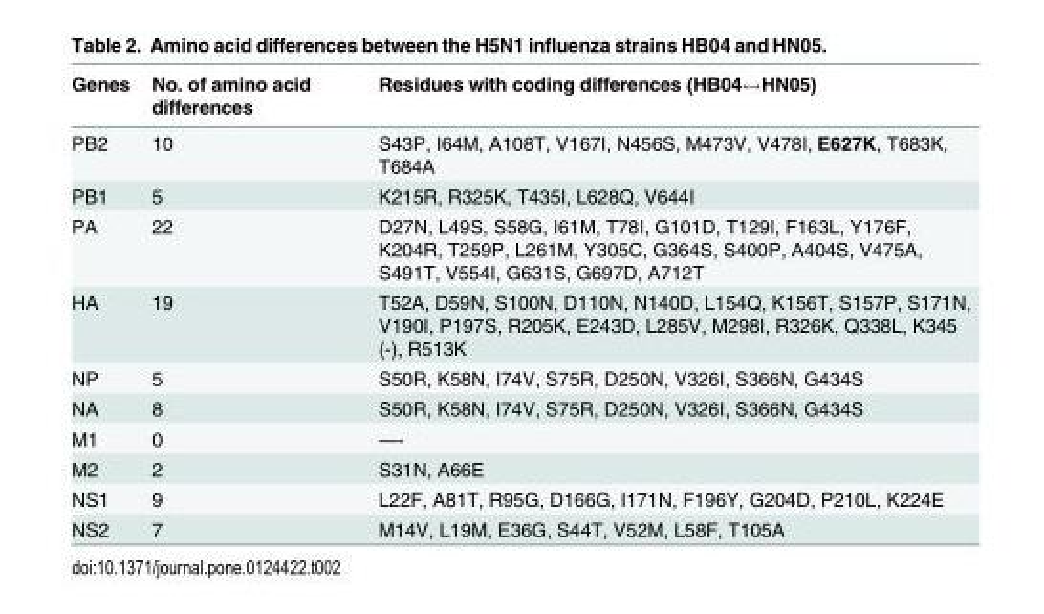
<table><thead><tr><td>Genes</td><td>No. of amino acid differences</td><td>Residues with coding differences (HB04↔HN05)</td></tr></thead><tbody><tr><td>PB2</td><td>10</td><td>S43P, I64M, A108T, V167I, N456S, M473V, V478I, E627K, T683K, T684A</td></tr><tr><td>PB1</td><td>5</td><td>K215R, R325K, T435I, L628Q, V644I</td></tr><tr><td>PA</td><td>22</td><td>D27N, L49S, S58G, I61M, T78I, G101D, T129I, F163L, Y176F, K204R, T259P, L261M, Y305C, G364S, S400P, A404S, V475A, S491T, V554I, G631S, G697D, A712T</td></tr><tr><td>HA</td><td>19</td><td>T52A, D59N, S100N, D110N, N140D, L154Q, K156T, S157P, S171N, V190I, P197S, R205K, E243D, L285V, M298I, R326K, Q338L, K345 (-), R513K</td></tr><tr><td>NP</td><td>5</td><td>S50R, K58N, I74V, S75R, D250N, V326I, S366N, G434S</td></tr><tr><td>NA</td><td>8</td><td>S50R, K58N, I74V, S75R, D250N, V326I, S366N, G434S</td></tr><tr><td>M1</td><td>0</td><td>—-</td></tr><tr><td>M2</td><td>2</td><td>S31N, A66E</td></tr><tr><td>NS1</td><td>9</td><td>L22F, A81T, R95G, D166G, I171N, F196Y, G204D, P210L, K224E</td></tr><tr><td>NS2</td><td>7</td><td>M14V, L19M, E36G, S44T, V52M, L58F, T105A</td></tr></tbody></table>